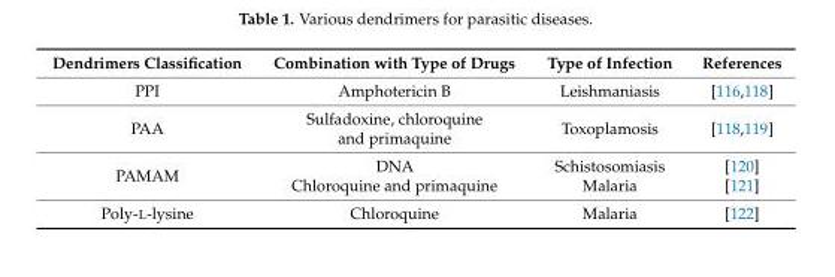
<table><thead><tr><td>Dendrimers Classification</td><td>Combination with Type of Drugs</td><td>Type of Infection</td><td>References</td></tr></thead><tbody><tr><td>PPI</td><td>Amphotericin B</td><td>Leishmaniasis</td><td>[116,118]</td></tr><tr><td>PAA</td><td>Sulfadoxine, chloroquine and primaquine</td><td>Toxoplamosis</td><td>[118,119]</td></tr><tr><td>PAMAM</td><td>DNA Chloroquine and primaquine</td><td>Schistosomiasis Malaria</td><td>[120] [121]</td></tr><tr><td>Poly-L-lysine</td><td>Chloroquine</td><td>Malaria</td><td>[122]</td></tr></tbody></table>